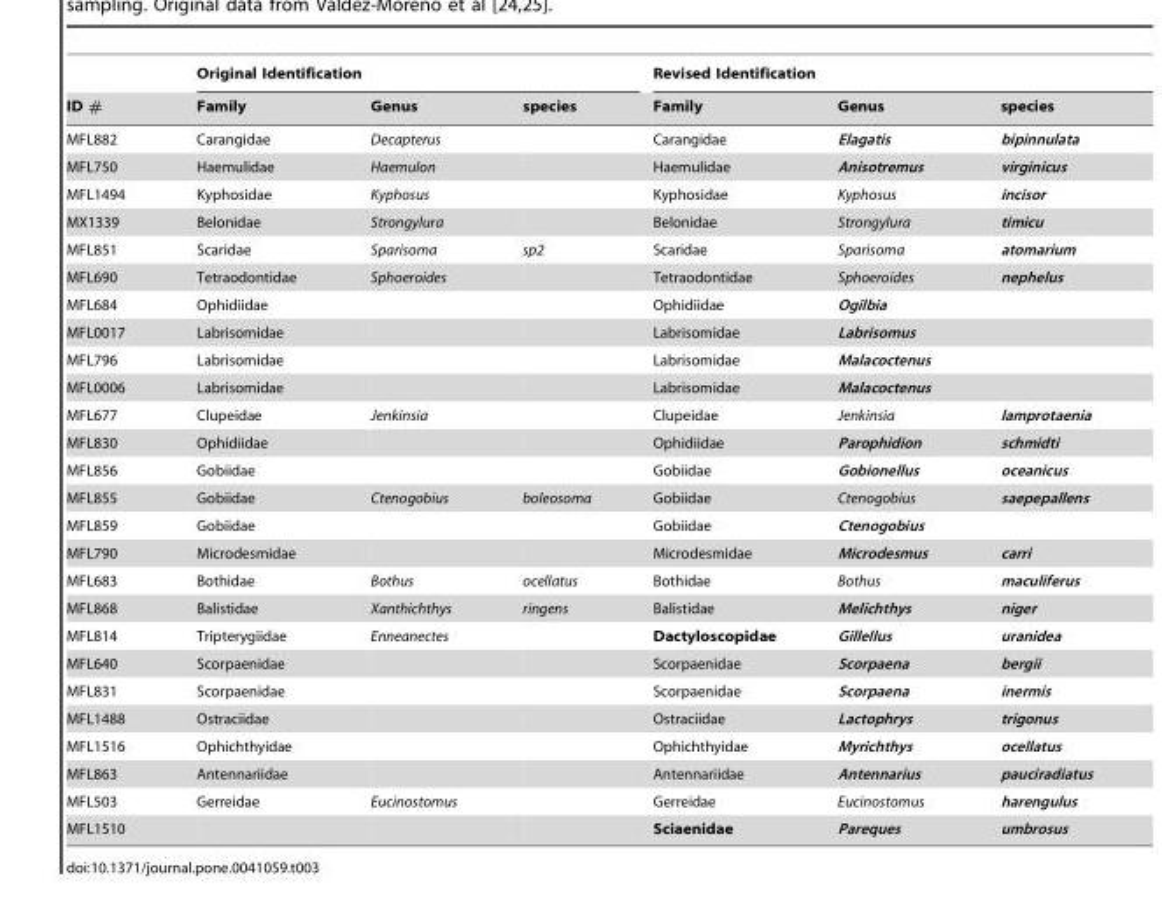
<table><thead><tr><td rowspan="2">ID #</td><td colspan="3">Original Identification</td><td colspan="3">Revised Identification</td></tr><tr><td>Family</td><td>Genus</td><td>species</td><td>Family</td><td>Genus</td><td>species</td></tr></thead><tbody><tr><td>MFL882</td><td>Carangidae</td><td>Decapterus</td><td></td><td>Carangidae</td><td>Elagatis</td><td>bipinnulata</td></tr><tr><td>MFL750</td><td>Haemulidae</td><td>Haemulon</td><td></td><td>Haemulidae</td><td>Anisotremus</td><td>virginicus</td></tr><tr><td>MFL1494</td><td>Kyphosidae</td><td>Kyphosus</td><td></td><td>Kyphosidae</td><td>Kyphosus</td><td>incisor</td></tr><tr><td>MX1339</td><td>Belonidae</td><td>Strongylura</td><td></td><td>Belonidae</td><td>Strongylura</td><td>timicu</td></tr><tr><td>MFL851</td><td>Scaridae</td><td>Sparisoma</td><td>sp2</td><td>Scaridae</td><td>Sparisoma</td><td>atomarium</td></tr><tr><td>MFL690</td><td>Tetraodontidae</td><td>Sphoeroides</td><td></td><td>Tetraodontidae</td><td>Sphoeroides</td><td>nephelus</td></tr><tr><td>MFL684</td><td>Ophidiidae</td><td></td><td></td><td>Ophidiidae</td><td>Ogilbia</td><td></td></tr><tr><td>MFL0017</td><td>Labrisomidae</td><td></td><td></td><td>Labrisomidae</td><td>Labrisomus</td><td></td></tr><tr><td>MFL796</td><td>Labrisomidae</td><td></td><td></td><td>Labrisomidae</td><td>Malacoctenus</td><td></td></tr><tr><td>MFL0006</td><td>Labrisomidae</td><td></td><td></td><td>Labrisomidae</td><td>Malacoctenus</td><td></td></tr><tr><td>MFL677</td><td>Clupeidae</td><td>Jenkinsia</td><td></td><td>Clupeidae</td><td>Jenkinsia</td><td>lamprotaenia</td></tr><tr><td>MFL830</td><td>Ophidiidae</td><td></td><td></td><td>Ophidiidae</td><td>Parophidion</td><td>schmidti</td></tr><tr><td>MFL856</td><td>Gobiidae</td><td></td><td></td><td>Gobiidae</td><td>Gobionellus</td><td>oceanicus</td></tr><tr><td>MFL855</td><td>Gobiidae</td><td>Ctenogobius</td><td>boleosoma</td><td>Gobiidae</td><td>Ctenogobius</td><td>saepepallens</td></tr><tr><td>MFL859</td><td>Gobiidae</td><td></td><td></td><td>Gobiidae</td><td>Ctenogobius</td><td></td></tr><tr><td>MFL790</td><td>Microdesmidae</td><td></td><td></td><td>Microdesmidae</td><td>Microdesmus</td><td>carri</td></tr><tr><td>MFL683</td><td>Bothidae</td><td>Bothus</td><td>ocellatus</td><td>Bothidae</td><td>Bothus</td><td>maculiferus</td></tr><tr><td>MFL868</td><td>Balistidae</td><td>Xanthichthys</td><td>ringens</td><td>Balistidae</td><td>Melichthys</td><td>niger</td></tr><tr><td>MFL814</td><td>Tripterygiidae</td><td>Enneanectes</td><td></td><td>Dactyloscopidae</td><td>Gillellus</td><td>uranidea</td></tr><tr><td>MFL640</td><td>Scorpaenidae</td><td></td><td></td><td>Scorpaenidae</td><td>Scorpaena</td><td>bergii</td></tr><tr><td>MFL831</td><td>Scorpaenidae</td><td></td><td></td><td>Scorpaenidae</td><td>Scorpaena</td><td>inermis</td></tr><tr><td>MFL1488</td><td>Ostraciidae</td><td></td><td></td><td>Ostraciidae</td><td>Lactophrys</td><td>trigonus</td></tr><tr><td>MFL1516</td><td>Ophichthyidae</td><td></td><td></td><td>Ophichthyidae</td><td>Myrichthys</td><td>ocellatus</td></tr><tr><td>MFL863</td><td>Antennariidae</td><td></td><td></td><td>Antennariidae</td><td>Antennarius</td><td>pauciradiatus</td></tr><tr><td>MFL503</td><td>Gerreidae</td><td>Eucinostomus</td><td></td><td>Gerreidae</td><td>Eucinostomus</td><td>harengulus</td></tr><tr><td>MFL1510</td><td></td><td></td><td></td><td>Sciaenidae</td><td>Pareques</td><td>umbrosus</td></tr></tbody></table>